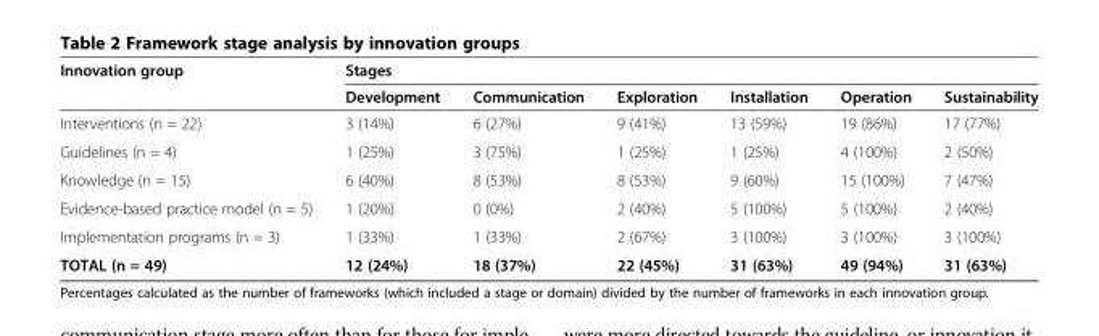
<table><thead><tr><td rowspan="2">Innovation group</td><td colspan="6">Stages</td></tr><tr><td>Development</td><td>Communication</td><td>Exploration</td><td>Installation</td><td>Operation</td><td>Sustainability</td></tr></thead><tbody><tr><td>Interventions (n = 22)</td><td>3 (14%)</td><td>6 (27%)</td><td>9 (41%)</td><td>13 (59%)</td><td>19 (86%)</td><td>17 (77%)</td></tr><tr><td>Guidelines (n = 4)</td><td>1 (25%)</td><td>3 (75%)</td><td>1 (25%)</td><td>1 (25%)</td><td>4 (100%)</td><td>2 (50%)</td></tr><tr><td>Knowledge (n = 15)</td><td>6 (40%)</td><td>8 (53%)</td><td>8 (53%)</td><td>9 (60%)</td><td>15 (100%)</td><td>7 (47%)</td></tr><tr><td>Evidence-based practice model (n = 5)</td><td>1 (20%)</td><td>0 (0%)</td><td>2 (40%)</td><td>5 (100%)</td><td>5 (100%)</td><td>2 (40%)</td></tr><tr><td>Implementation programs (n = 3)</td><td>1 (33%)</td><td>1 (33%)</td><td>2 (67%)</td><td>3 (100%)</td><td>3 (100%)</td><td>3 (100%)</td></tr><tr><td>TOTAL (n = 49)</td><td>12 (24%)</td><td>18 (37%)</td><td>22 (45%)</td><td>31 (63%)</td><td>49 (94%)</td><td>31 (63%)</td></tr></tbody></table>